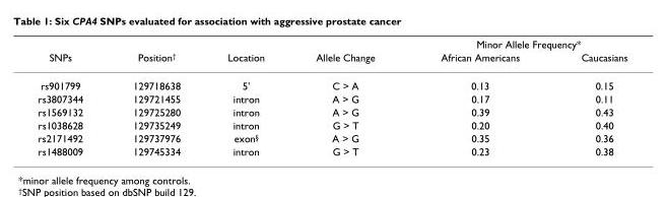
<table><thead><tr><td rowspan="2">SNPs</td><td rowspan="2">Position<sup>†</sup></td><td rowspan="2">Location</td><td rowspan="2">Allele Change</td><td colspan="2">Minor Allele Frequency*</td></tr><tr><td>African Americans</td><td>Caucasians</td></tr></thead><tbody><tr><td>rs901799</td><td>129718638</td><td>5&#x27;</td><td>C &gt; A</td><td>0.13</td><td>0.15</td></tr><tr><td>rs3807344</td><td>129721455</td><td>intron</td><td>A &gt; G</td><td>0.17</td><td>0.11</td></tr><tr><td>rs1569132</td><td>129725280</td><td>intron</td><td>A &gt; G</td><td>0.39</td><td>0.43</td></tr><tr><td>rs1038628</td><td>129735249</td><td>intron</td><td>G &gt; T</td><td>0.20</td><td>0.40</td></tr><tr><td>rs2171492</td><td>129737976</td><td>exon<sup>§</sup></td><td>A &gt; G</td><td>0.35</td><td>0.36</td></tr><tr><td>rs1488009</td><td>129745334</td><td>intron</td><td>G &gt; T</td><td>0.23</td><td>0.38</td></tr></tbody></table>